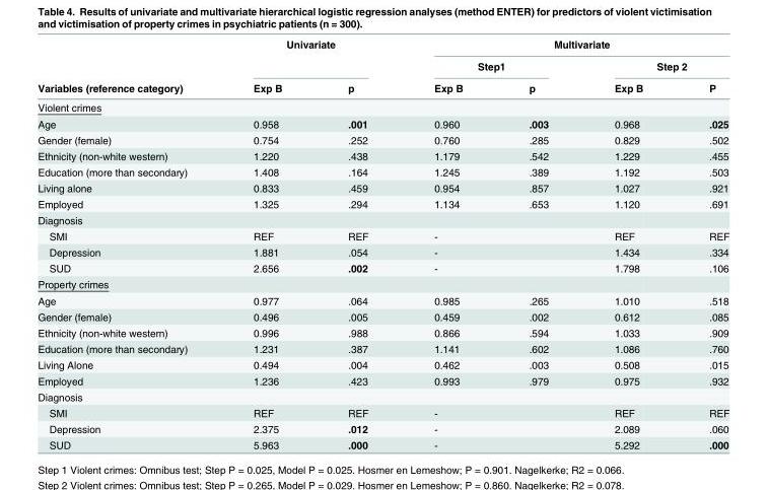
<table><thead><tr><td rowspan="3">Variables (reference category)</td><td colspan="2">Univariate</td><td colspan="4">Multivariate</td></tr><tr><td rowspan="2">Exp B</td><td rowspan="2">p</td><td colspan="2">Step1</td><td colspan="2">Step 2</td></tr><tr><td>Exp B</td><td>p</td><td>Exp B</td><td>P</td></tr></thead><tbody><tr><td colspan="7">Violent crimes</td></tr><tr><td>Age</td><td>0.958</td><td>.001</td><td>0.960</td><td>.003</td><td>0.968</td><td>.025</td></tr><tr><td>Gender (female)</td><td>0.754</td><td>.252</td><td>0.760</td><td>.285</td><td>0.829</td><td>.502</td></tr><tr><td>Ethnicity (non-white western)</td><td>1.220</td><td>.438</td><td>1.179</td><td>.542</td><td>1.229</td><td>.455</td></tr><tr><td>Education (more than secondary)</td><td>1.408</td><td>.164</td><td>1.245</td><td>.389</td><td>1.192</td><td>.503</td></tr><tr><td>Living alone</td><td>0.833</td><td>.459</td><td>0.954</td><td>.857</td><td>1.027</td><td>.921</td></tr><tr><td>Employed</td><td>1.325</td><td>.294</td><td>1.134</td><td>.653</td><td>1.120</td><td>.691</td></tr><tr><td colspan="7">Diagnosis</td></tr><tr><td>SMI</td><td>REF</td><td>REF</td><td>-</td><td></td><td>REF</td><td>REF</td></tr><tr><td>Depression</td><td>1.881</td><td>.054</td><td>-</td><td></td><td>1.434</td><td>.334</td></tr><tr><td>SUD</td><td>2.656</td><td>.002</td><td>-</td><td></td><td>1.798</td><td>.106</td></tr><tr><td colspan="7">Property crimes</td></tr><tr><td>Age</td><td>0.977</td><td>.064</td><td>0.985</td><td>.265</td><td>1.010</td><td>.518</td></tr><tr><td>Gender (female)</td><td>0.496</td><td>.005</td><td>0.459</td><td>.002</td><td>0.612</td><td>.085</td></tr><tr><td>Ethnicity (non-white western)</td><td>0.996</td><td>.988</td><td>0.866</td><td>.594</td><td>1.033</td><td>.909</td></tr><tr><td>Education (more than secondary)</td><td>1.231</td><td>.387</td><td>1.141</td><td>.602</td><td>1.086</td><td>.760</td></tr><tr><td>Living Alone</td><td>0.494</td><td>.004</td><td>0.462</td><td>.003</td><td>0.508</td><td>.015</td></tr><tr><td>Employed</td><td>1.236</td><td>.423</td><td>0.993</td><td>.979</td><td>0.975</td><td>.932</td></tr><tr><td colspan="7">Diagnosis</td></tr><tr><td>SMI</td><td>REF</td><td>REF</td><td>-</td><td></td><td>REF</td><td>REF</td></tr><tr><td>Depression</td><td>2.375</td><td>.012</td><td>-</td><td></td><td>2.089</td><td>.060</td></tr><tr><td>SUD</td><td>5.963</td><td>.000</td><td>-</td><td></td><td>5.292</td><td>.000</td></tr></tbody></table>